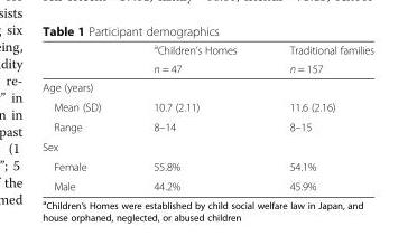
<table><thead><tr><td rowspan="2"></td><td rowspan="2"><sup>a</sup>Children’s Homes n = 47</td><td rowspan="2">Traditional families n = 157</td></tr><tr></tr></thead><tbody><tr><td colspan="3">Age (years)</td></tr><tr><td>Mean (SD)</td><td>10.7 (2.11)</td><td>11.6 (2.16)</td></tr><tr><td>Range</td><td>8–14</td><td>8–15</td></tr><tr><td colspan="3">Sex</td></tr><tr><td>Female</td><td>55.8%</td><td>54.1%</td></tr><tr><td>Male</td><td>44.2%</td><td>45.9%</td></tr></tbody></table>